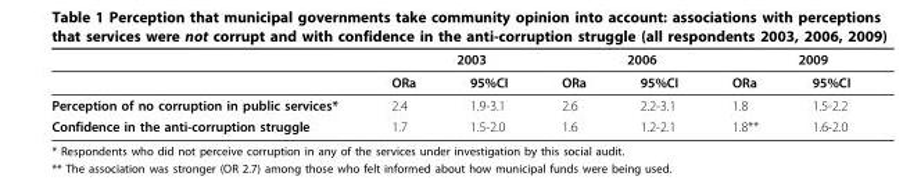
<table><thead><tr><td rowspan="2"></td><td colspan="2">2003</td><td colspan="2">2006</td><td colspan="2">2009</td></tr><tr><td>ORa</td><td>95%CI</td><td>ORa</td><td>95%CI</td><td>ORa</td><td>95%CI</td></tr></thead><tbody><tr><td>Perception of no corruption in public services*</td><td>2.4</td><td>1.9-3.1</td><td>2.6</td><td>2.2-3.1</td><td>1.8</td><td>1.5-2.2</td></tr><tr><td>Confidence in the anti-corruption struggle</td><td>1.7</td><td>1.5-2.0</td><td>1.6</td><td>1.2-2.1</td><td>1.8**</td><td>1.6-2.0</td></tr></tbody></table>